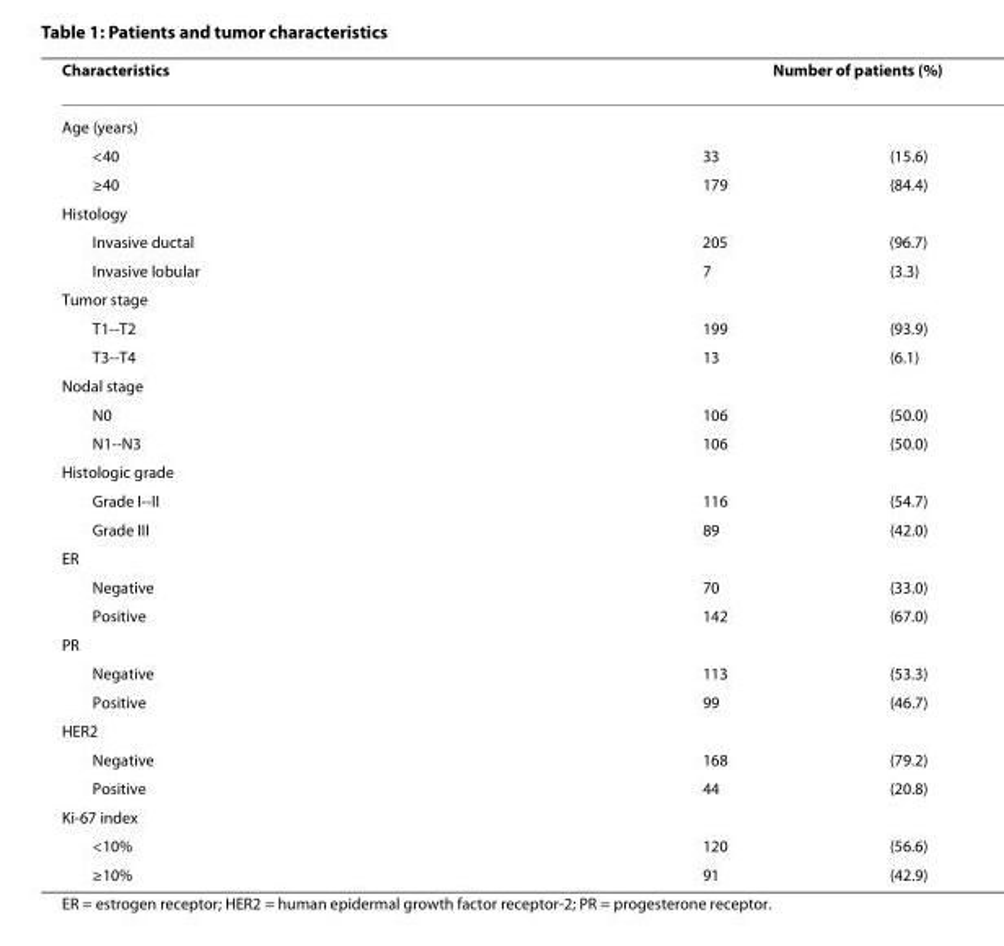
<table><thead><tr><td rowspan="2">Characteristics Age (years)</td><td colspan="2">Number of patients (%)</td></tr><tr><td></td><td></td></tr></thead><tbody><tr><td>&lt;40</td><td>33</td><td>(15.6)</td></tr><tr><td>≥40</td><td>179</td><td>(84.4)</td></tr><tr><td colspan="3">Histology</td></tr><tr><td>Invasive ductal</td><td>205</td><td>(96.7)</td></tr><tr><td>Invasive lobular</td><td>7</td><td>(3.3)</td></tr><tr><td colspan="3">Tumor stage</td></tr><tr><td>T1--T2</td><td>199</td><td>(93.9)</td></tr><tr><td>T3--T4</td><td>13</td><td>(6.1)</td></tr><tr><td colspan="3">Nodal stage</td></tr><tr><td>N0</td><td>106</td><td>(50.0)</td></tr><tr><td>N1--N3</td><td>106</td><td>(50.0)</td></tr><tr><td colspan="3">Histologic grade</td></tr><tr><td>Grade I--II</td><td>116</td><td>(54.7)</td></tr><tr><td>Grade III</td><td>89</td><td>(42.0)</td></tr><tr><td colspan="3">ER</td></tr><tr><td>Negative</td><td>70</td><td>(33.0)</td></tr><tr><td>Positive</td><td>142</td><td>(67.0)</td></tr><tr><td colspan="3">PR</td></tr><tr><td>Negative</td><td>113</td><td>(53.3)</td></tr><tr><td>Positive</td><td>99</td><td>(46.7)</td></tr><tr><td colspan="3">HER2</td></tr><tr><td>Negative</td><td>168</td><td>(79.2)</td></tr><tr><td>Positive</td><td>44</td><td>(20.8)</td></tr><tr><td colspan="3">Ki-67 index</td></tr><tr><td>&lt;10%</td><td>120</td><td>(56.6)</td></tr><tr><td>≥10%</td><td>91</td><td>(42.9)</td></tr></tbody></table>